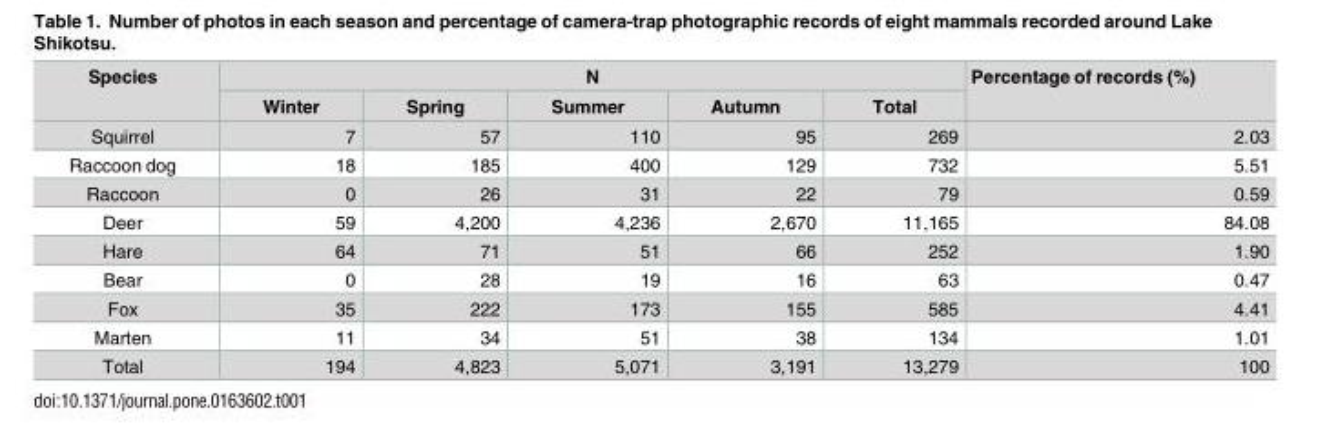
<table><thead><tr><td rowspan="2">Species</td><td colspan="5">N</td><td rowspan="2">Percentage of records (%)</td></tr><tr><td>Winter</td><td>Spring</td><td>Summer</td><td>Autumn</td><td>Total</td></tr></thead><tbody><tr><td>Squirrel</td><td>7</td><td>57</td><td>110</td><td>95</td><td>269</td><td>2.03</td></tr><tr><td>Raccoon dog</td><td>18</td><td>185</td><td>400</td><td>129</td><td>732</td><td>5.51</td></tr><tr><td>Raccoon</td><td>0</td><td>26</td><td>31</td><td>22</td><td>79</td><td>0.59</td></tr><tr><td>Deer</td><td>59</td><td>4,200</td><td>4,236</td><td>2,670</td><td>11,165</td><td>84.08</td></tr><tr><td>Hare</td><td>64</td><td>71</td><td>51</td><td>66</td><td>252</td><td>1.90</td></tr><tr><td>Bear</td><td>0</td><td>28</td><td>19</td><td>16</td><td>63</td><td>0.47</td></tr><tr><td>Fox</td><td>35</td><td>222</td><td>173</td><td>155</td><td>585</td><td>4.41</td></tr><tr><td>Marten</td><td>11</td><td>34</td><td>51</td><td>38</td><td>134</td><td>1.01</td></tr><tr><td>Total</td><td>194</td><td>4,823</td><td>5,071</td><td>3,191</td><td>13,279</td><td>100</td></tr></tbody></table>